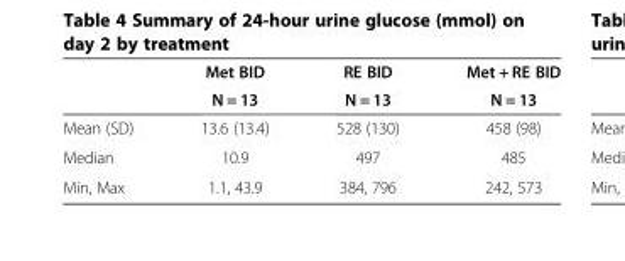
<table><thead><tr><td rowspan="2"></td><td rowspan="2">Met BID N = 13</td><td rowspan="2">RE BID N = 13</td><td rowspan="2">Met + RE BID N = 13</td></tr><tr></tr></thead><tbody><tr><td>Mean (SD)</td><td>13.6 (13.4)</td><td>528 (130)</td><td>458 (98)</td></tr><tr><td>Median</td><td>10.9</td><td>497</td><td>485</td></tr><tr><td>Min, Max</td><td>1.1, 43.9</td><td>384, 796</td><td>242, 573</td></tr></tbody></table>